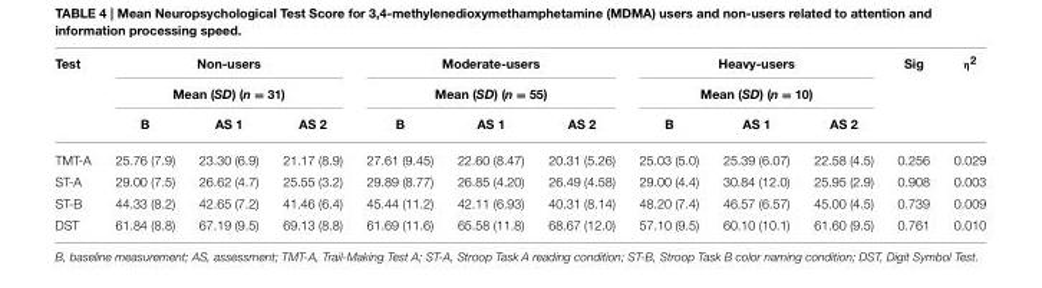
<table><thead><tr><td rowspan="3">Test</td><td rowspan="2" colspan="3">Non-users Mean (SD) (n = 31)</td><td rowspan="2" colspan="3">Moderate-users Mean (SD) (n = 55)</td><td rowspan="2" colspan="3">Heavy-users Mean (SD) (n = 10)</td><td rowspan="3">Sig</td><td rowspan="3">η<sup>2</sup></td></tr><tr></tr><tr><td>B</td><td>AS 1</td><td>AS 2</td><td>B</td><td>AS 1</td><td>AS 2</td><td>B</td><td>AS 1</td><td>AS 2</td></tr></thead><tbody><tr><td>TMT-A</td><td>25.76 (7.9)</td><td>23.30 (6.9)</td><td>21.17 (8.9)</td><td>27.61 (9.45)</td><td>22.60 (8.47)</td><td>20.31 (5.26)</td><td>25.03 (5.0)</td><td>25.39 (6.07)</td><td>22.58 (4.5)</td><td>0.256</td><td>0.029</td></tr><tr><td>ST-A</td><td>29.00 (7.5)</td><td>26.62 (4.7)</td><td>25.55 (3.2)</td><td>29.89 (8.77)</td><td>26.85 (4.20)</td><td>26.49 (4.58)</td><td>29.00 (4.4)</td><td>30.84 (12.0)</td><td>25.95 (2.9)</td><td>0.908</td><td>0.003</td></tr><tr><td>ST-B</td><td>44.33 (8.2)</td><td>42.65 (7.2)</td><td>41.46 (6.4)</td><td>45.44 (11.2)</td><td>42.11 (6.93)</td><td>40.31 (8.14)</td><td>48.20 (7.4)</td><td>46.57 (6.57)</td><td>45.00 (4.5)</td><td>0.739</td><td>0.009</td></tr><tr><td>DST</td><td>61.84 (8.8)</td><td>67.19 (9.5)</td><td>69.13 (8.8)</td><td>61.69 (11.6)</td><td>65.58 (11.8)</td><td>68.67 (12.0)</td><td>57.10 (9.5)</td><td>60.10 (10.1)</td><td>61.60 (9.5)</td><td>0.761</td><td>0.010</td></tr></tbody></table>